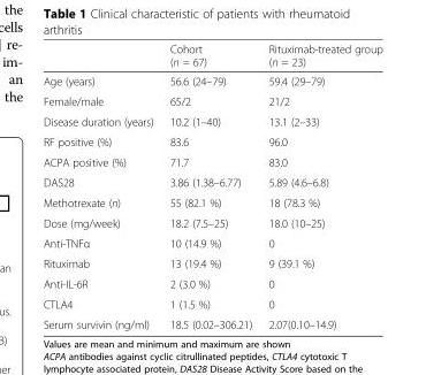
<table><thead><tr><td></td><td>Cohort (n = 67)</td><td>Rituximab-treated group (n = 23)</td></tr></thead><tbody><tr><td>Age (years)</td><td>56.6 (24–79)</td><td>59.4 (29–79)</td></tr><tr><td>Female/male</td><td>65/2</td><td>21/2</td></tr><tr><td>Disease duration (years)</td><td>10.2 (1–40)</td><td>13.1 (2–33)</td></tr><tr><td>RF positive (%)</td><td>83.6</td><td>96.0</td></tr><tr><td>ACPA positive (%)</td><td>71.7</td><td>83.0</td></tr><tr><td>DAS28</td><td>3.86 (1.38–6.77)</td><td>5.89 (4.6–6.8)</td></tr><tr><td>Methotrexate (n)</td><td>55 (82.1 %)</td><td>18 (78.3 %)</td></tr><tr><td>Dose (mg/week)</td><td>18.2 (7.5–25)</td><td>18.0 (10–25)</td></tr><tr><td>Anti-TNFα</td><td>10 (14.9 %)</td><td>0</td></tr><tr><td>Rituximab</td><td>13 (19.4 %)</td><td>9 (39.1 %)</td></tr><tr><td>Anti-IL-6R</td><td>2 (3.0 %)</td><td>0</td></tr><tr><td>CTLA4</td><td>1 (1.5 %)</td><td>0</td></tr><tr><td>Serum survivin (ng/ml)</td><td>18.5 (0.02–306.21)</td><td>2.07(0.10–14.9)</td></tr></tbody></table>